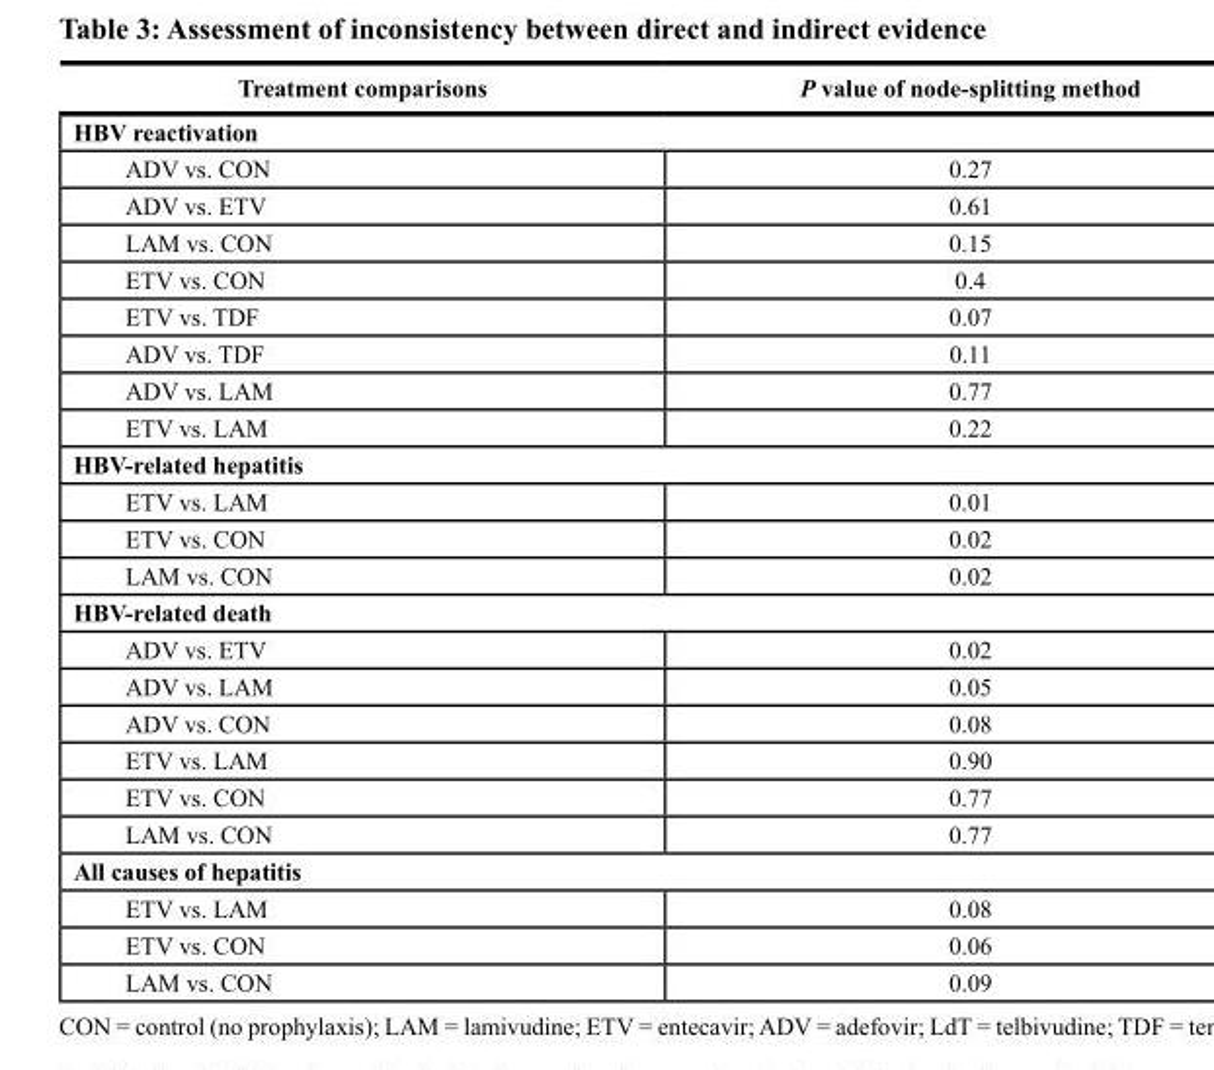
<table><thead><tr><td>Treatment comparisons</td><td>P value of node-splitting method</td></tr></thead><tbody><tr><td colspan="2">HBV reactivation</td></tr><tr><td>ADV vs. CON</td><td>0.27</td></tr><tr><td>ADV vs. ETV</td><td>0.61</td></tr><tr><td>LAM vs. CON</td><td>0.15</td></tr><tr><td>ETV vs. CON</td><td>0.4</td></tr><tr><td>ETV vs. TDF</td><td>0.07</td></tr><tr><td>ADV vs. TDF</td><td>0.11</td></tr><tr><td>ADV vs. LAM</td><td>0.77</td></tr><tr><td>ETV vs. LAM</td><td>0.22</td></tr><tr><td colspan="2">HBV-related hepatitis</td></tr><tr><td>ETV vs. LAM</td><td>0.01</td></tr><tr><td>ETV vs. CON</td><td>0.02</td></tr><tr><td>LAM vs. CON</td><td>0.02</td></tr><tr><td colspan="2">HBV-related death</td></tr><tr><td>ADV vs. ETV</td><td>0.02</td></tr><tr><td>ADV vs. LAM</td><td>0.05</td></tr><tr><td>ADV vs. CON</td><td>0.08</td></tr><tr><td>ETV vs. LAM</td><td>0.90</td></tr><tr><td>ETV vs. CON</td><td>0.77</td></tr><tr><td>LAM vs. CON</td><td>0.77</td></tr><tr><td colspan="2">All causes of hepatitis</td></tr><tr><td>ETV vs. LAM</td><td>0.08</td></tr><tr><td>ETV vs. CON</td><td>0.06</td></tr><tr><td>LAM vs. CON</td><td>0.09</td></tr></tbody></table>